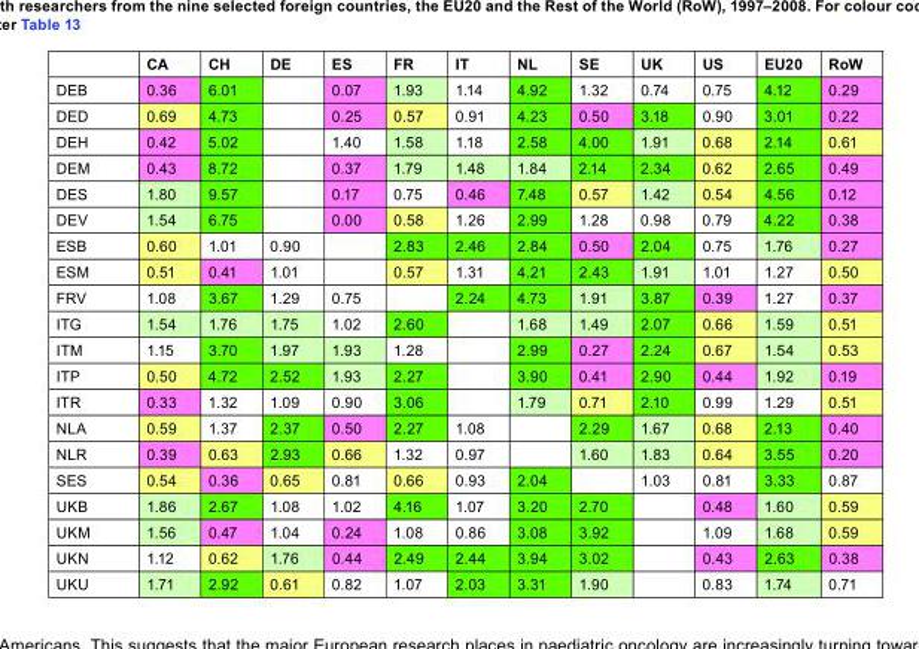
<table><thead><tr><td></td><td>CA</td><td>CH</td><td>DE</td><td>ES</td><td>FR</td><td>IT</td><td>NL</td><td>SE</td><td>UK</td><td>US</td><td>EU20</td><td>RoW</td></tr></thead><tbody><tr><td>DEB</td><td>0.36</td><td>6.01</td><td></td><td>0.07</td><td>1.93</td><td>1.14</td><td>4.92</td><td>1.32</td><td>0.74</td><td>0.75</td><td>4.12</td><td>0.29</td></tr><tr><td>DED</td><td>0.69</td><td>4.73</td><td></td><td>0.25</td><td>0.57</td><td>0.91</td><td>4.23</td><td>0.50</td><td>3.18</td><td>0.90</td><td>3.01</td><td>0.22</td></tr><tr><td>DEH</td><td>0.42</td><td>5.02</td><td></td><td>1.40</td><td>1.58</td><td>1.18</td><td>2.58</td><td>4.00</td><td>1.91</td><td>0.68</td><td>2.14</td><td>0.61</td></tr><tr><td>DEM</td><td>0.43</td><td>8.72</td><td></td><td>0.37</td><td>1.79</td><td>1.48</td><td>1.84</td><td>2.14</td><td>2.34</td><td>0.62</td><td>2.65</td><td>0.49</td></tr><tr><td>DES</td><td>1.80</td><td>9.57</td><td></td><td>0.17</td><td>0.75</td><td>0.46</td><td>7.48</td><td>0.57</td><td>1.42</td><td>0.54</td><td>4.56</td><td>0.12</td></tr><tr><td>DEV</td><td>1.54</td><td>6.75</td><td></td><td>0.00</td><td>0.58</td><td>1.26</td><td>2.99</td><td>1.28</td><td>0.98</td><td>0.79</td><td>4.22</td><td>0.38</td></tr><tr><td>ESB</td><td>0.60</td><td>1.01</td><td>0.90</td><td></td><td>2.83</td><td>2.46</td><td>2.84</td><td>0.50</td><td>2.04</td><td>0.75</td><td>1.76</td><td>0.27</td></tr><tr><td>ESM</td><td>0.51</td><td>0.41</td><td>1.01</td><td></td><td>0.57</td><td>1.31</td><td>4.21</td><td>2.43</td><td>1.91</td><td>1.01</td><td>1.27</td><td>0.50</td></tr><tr><td>FRV</td><td>1.08</td><td>3.67</td><td>1.29</td><td>0.75</td><td></td><td>2.24</td><td>4.73</td><td>1.91</td><td>3.87</td><td>0.39</td><td>1.27</td><td>0.37</td></tr><tr><td>ITG</td><td>1.54</td><td>1.76</td><td>1.75</td><td>1.02</td><td>2.60</td><td></td><td>1.68</td><td>1.49</td><td>2.07</td><td>0.66</td><td>1.59</td><td>0.51</td></tr><tr><td>ITM</td><td>1.15</td><td>3.70</td><td>1.97</td><td>1.93</td><td>1.28</td><td></td><td>2.99</td><td>0.27</td><td>2.24</td><td>0.67</td><td>1.54</td><td>0.53</td></tr><tr><td>ITP</td><td>0.50</td><td>4.72</td><td>2.52</td><td>1.93</td><td>2.27</td><td></td><td>3.90</td><td>0.41</td><td>2.90</td><td>0.44</td><td>1.92</td><td>0.19</td></tr><tr><td>ITR</td><td>0.33</td><td>1.32</td><td>1.09</td><td>0.90</td><td>3.06</td><td></td><td>1.79</td><td>0.71</td><td>2.10</td><td>0.99</td><td>1.29</td><td>0.51</td></tr><tr><td>NLA</td><td>0.59</td><td>1.37</td><td>2.37</td><td>0.50</td><td>2.27</td><td>1.08</td><td></td><td>2.29</td><td>1.67</td><td>0.68</td><td>2.13</td><td>0.40</td></tr><tr><td>NLR</td><td>0.39</td><td>0.63</td><td>2.93</td><td>0.66</td><td>1.32</td><td>0.97</td><td></td><td>1.60</td><td>1.83</td><td>0.64</td><td>3.55</td><td>0.20</td></tr><tr><td>SES</td><td>0.54</td><td>0.36</td><td>0.65</td><td>0.81</td><td>0.66</td><td>0.93</td><td>2.04</td><td></td><td>1.03</td><td>0.81</td><td>3.33</td><td>0.87</td></tr><tr><td>UKB</td><td>1.86</td><td>2.67</td><td>1.08</td><td>1.02</td><td>4.16</td><td>1.07</td><td>3.20</td><td>2.70</td><td></td><td>0.48</td><td>1.60</td><td>0.59</td></tr><tr><td>UKM</td><td>1.56</td><td>0.47</td><td>1.04</td><td>0.24</td><td>1.08</td><td>0.86</td><td>3.08</td><td>3.92</td><td></td><td>1.09</td><td>1.68</td><td>0.59</td></tr><tr><td>UKN</td><td>1.12</td><td>0.62</td><td>1.76</td><td>0.44</td><td>2.49</td><td>2.44</td><td>3.94</td><td>3.02</td><td></td><td>0.43</td><td>2.63</td><td>0.38</td></tr><tr><td>UKU</td><td>1.71</td><td>2.92</td><td>0.61</td><td>0.82</td><td>1.07</td><td>2.03</td><td>3.31</td><td>1.90</td><td></td><td>0.83</td><td>1.74</td><td>0.71</td></tr></tbody></table>